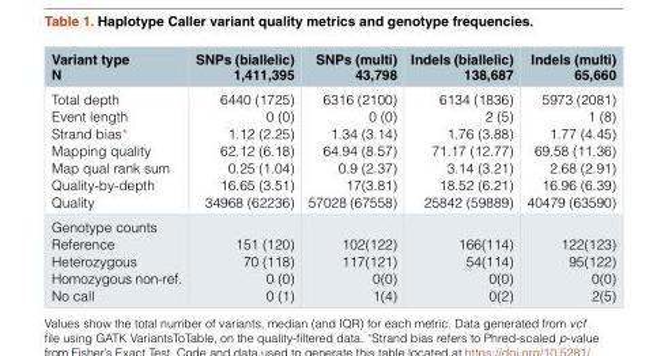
<table><thead><tr><td>Variant type N</td><td>SNPs (biallelic) 1,411,395</td><td>SNPs (multi) 43,798</td><td>Indels (biallelic) 138,687</td><td>Indels (multi) 65,660</td></tr></thead><tbody><tr><td>Total depth Event length Strand bias* Mapping quality Map qual rank sum Quality-by-depth Quality</td><td>6440 (1725) 0 (0) 1.12 (2.25) 62.12 (6.18) 0.25 (1.04) 16.65 (3.51) 34968 (62236)</td><td>6316 (2100) 0 (0) 1.34 (3.14) 64.94 (8.57) 0.9 (2.37) 17(3.81) 57028 (67558)</td><td>6134 (1836) 2 (5) 1.76 (3.88) 71.17 (12.77) 3.14 (3.21) 18.52 (6.21) 25842 (59889)</td><td>5973 (2081) 1 (8) 1.77 (4.45) 69.58 (11.36) 2.68 (2.91) 16.96 (6.39) 40479 (63590)</td></tr><tr><td>Genotype counts Reference Heterozygous Homozygous non-ref. No call</td><td>151 (120) 70 (118) 0 (0) 0 (1)</td><td>102(122) 117(121) 0(0) 1(4)</td><td>166(114) 54(114) 0(0) 0(2)</td><td>122(123) 95(122) 0(0) 2(5)</td></tr></tbody></table>